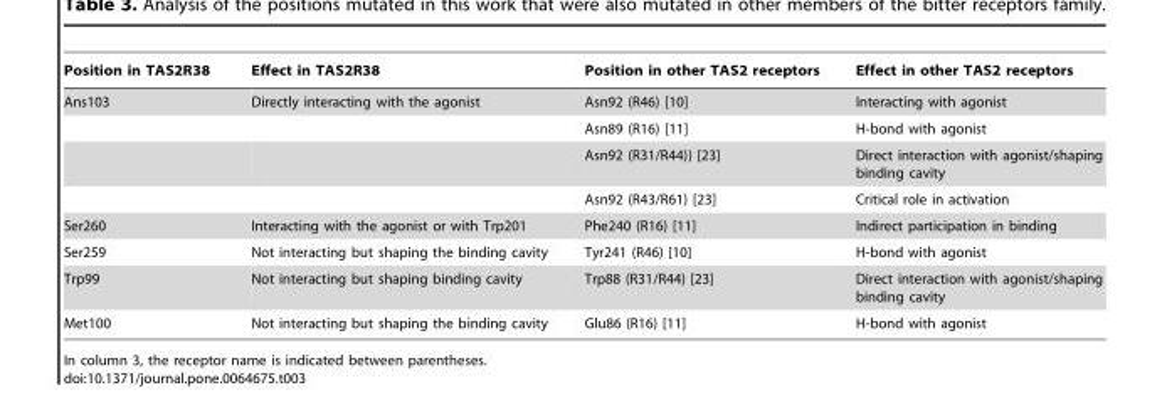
<table><thead><tr><td>Position in TAS2R38</td><td>Effect in TAS2R38</td><td>Position in other TAS2 receptors</td><td>Effect in other TAS2 receptors</td></tr></thead><tbody><tr><td rowspan="4">Ans103</td><td>Directly interacting with the agonist</td><td>Asn92 (R46) [10]</td><td>Interacting with agonist</td></tr><tr><td></td><td>Asn89 (R16) [11]</td><td>H-bond with agonist</td></tr><tr><td></td><td>Asn92 (R31/R44)) [23]</td><td>Direct interaction with agonist/shaping binding cavity</td></tr><tr><td></td><td>Asn92 (R43/R61) [23]</td><td>Critical role in activation</td></tr><tr><td>Ser260</td><td>Interacting with the agonist or with Trp201</td><td>Phe240 (R16) [11]</td><td>Indirect participation in binding</td></tr><tr><td>Ser259</td><td>Not interacting but shaping the binding cavity</td><td>Tyr241 (R46) [10]</td><td>H-bond with agonist</td></tr><tr><td>Trp99</td><td>Not interacting but shaping binding cavity</td><td>Trp88 (R31/R44) [23]</td><td>Direct interaction with agonist/shaping binding cavity</td></tr><tr><td>Met100</td><td>Not interacting but shaping the binding cavity</td><td>Glu86 (R16) [11]</td><td>H-bond with agonist</td></tr></tbody></table>